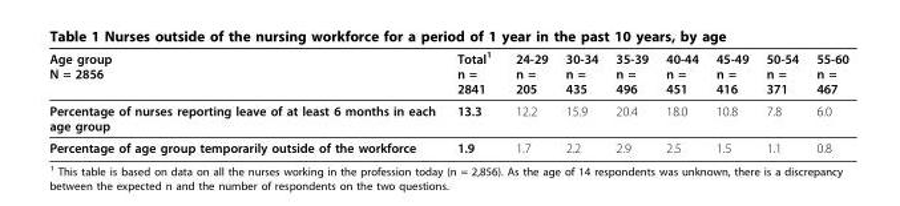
<table><thead><tr><td>Age group N = 2856</td><td>Total<sup>1</sup> n = 2841</td><td>24-29 n = 205</td><td>30-34 n = 435</td><td>35-39 n = 496</td><td>40-44 n = 451</td><td>45-49 n = 416</td><td>50-54 n = 371</td><td>55-60 n = 467</td></tr></thead><tbody><tr><td>Percentage of nurses reporting leave of at least 6 months in each age group</td><td>13.3</td><td>12.2</td><td>15.9</td><td>20.4</td><td>18.0</td><td>10.8</td><td>7.8</td><td>6.0</td></tr><tr><td>Percentage of age group temporarily outside of the workforce</td><td>1.9</td><td>1.7</td><td>2.2</td><td>2.9</td><td>2.5</td><td>1.5</td><td>1.1</td><td>0.8</td></tr></tbody></table>